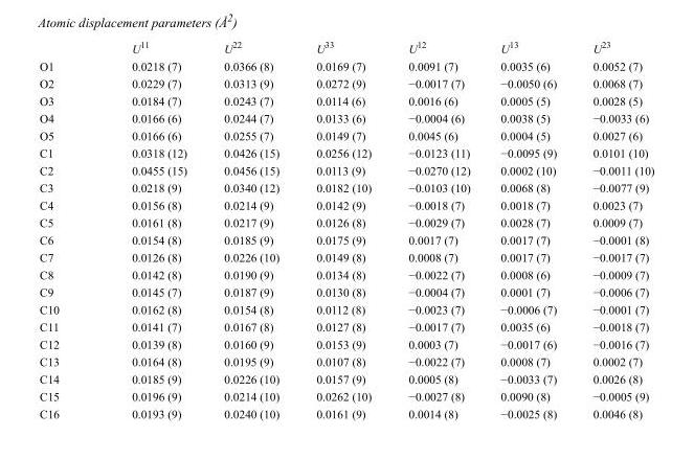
<table><thead><tr><td></td><td>U<sup>11</sup></td><td>U<sup>22</sup></td><td>U<sup>33</sup></td><td>U<sup>12</sup></td><td>U<sup>13</sup></td><td>U<sup>23</sup></td></tr></thead><tbody><tr><td>O1</td><td>0.0218 (7)</td><td>0.0366 (8)</td><td>0.0169 (7)</td><td>0.0091 (7)</td><td>0.0035 (6)</td><td>0.0052 (7)</td></tr><tr><td>O2</td><td>0.0229 (7)</td><td>0.0313 (9)</td><td>0.0272 (9)</td><td>−0.0017 (7)</td><td>−0.0050 (6)</td><td>0.0068 (7)</td></tr><tr><td>O3</td><td>0.0184 (7)</td><td>0.0243 (7)</td><td>0.0114 (6)</td><td>0.0016 (6)</td><td>0.0005 (5)</td><td>0.0028 (5)</td></tr><tr><td>O4</td><td>0.0166 (6)</td><td>0.0244 (7)</td><td>0.0133 (6)</td><td>−0.0004 (6)</td><td>0.0038 (5)</td><td>−0.0033 (6)</td></tr><tr><td>O5</td><td>0.0166 (6)</td><td>0.0255 (7)</td><td>0.0149 (7)</td><td>0.0045 (6)</td><td>0.0004 (5)</td><td>0.0027 (6)</td></tr><tr><td>C1</td><td>0.0318 (12)</td><td>0.0426 (15)</td><td>0.0256 (12)</td><td>−0.0123 (11)</td><td>−0.0095 (9)</td><td>0.0101 (10)</td></tr><tr><td>C2</td><td>0.0455 (15)</td><td>0.0456 (15)</td><td>0.0113 (9)</td><td>−0.0270 (12)</td><td>0.0002 (10)</td><td>−0.0011 (10)</td></tr><tr><td>C3</td><td>0.0218 (9)</td><td>0.0340 (12)</td><td>0.0182 (10)</td><td>−0.0103 (10)</td><td>0.0068 (8)</td><td>−0.0077 (9)</td></tr><tr><td>C4</td><td>0.0156 (8)</td><td>0.0214 (9)</td><td>0.0142 (9)</td><td>−0.0018 (7)</td><td>0.0018 (7)</td><td>0.0023 (7)</td></tr><tr><td>C5</td><td>0.0161 (8)</td><td>0.0217 (9)</td><td>0.0126 (8)</td><td>−0.0029 (7)</td><td>0.0028 (7)</td><td>0.0009 (7)</td></tr><tr><td>C6</td><td>0.0154 (8)</td><td>0.0185 (9)</td><td>0.0175 (9)</td><td>0.0017 (7)</td><td>0.0017 (7)</td><td>−0.0001 (8)</td></tr><tr><td>C7</td><td>0.0126 (8)</td><td>0.0226 (10)</td><td>0.0149 (8)</td><td>0.0008 (7)</td><td>0.0017 (7)</td><td>−0.0017 (7)</td></tr><tr><td>C8</td><td>0.0142 (8)</td><td>0.0190 (9)</td><td>0.0134 (8)</td><td>−0.0022 (7)</td><td>0.0008 (6)</td><td>−0.0009 (7)</td></tr><tr><td>C9</td><td>0.0145 (7)</td><td>0.0187 (9)</td><td>0.0130 (8)</td><td>−0.0004 (7)</td><td>0.0001 (7)</td><td>−0.0006 (7)</td></tr><tr><td>C10</td><td>0.0162 (8)</td><td>0.0154 (8)</td><td>0.0112 (8)</td><td>−0.0023 (7)</td><td>−0.0006 (7)</td><td>−0.0001 (7)</td></tr><tr><td>C11</td><td>0.0141 (7)</td><td>0.0167 (8)</td><td>0.0127 (8)</td><td>−0.0017 (7)</td><td>0.0035 (6)</td><td>−0.0018 (7)</td></tr><tr><td>C12</td><td>0.0139 (8)</td><td>0.0160 (9)</td><td>0.0153 (9)</td><td>0.0003 (7)</td><td>−0.0017 (6)</td><td>−0.0016 (7)</td></tr><tr><td>C13</td><td>0.0164 (8)</td><td>0.0195 (9)</td><td>0.0107 (8)</td><td>−0.0022 (7)</td><td>0.0008 (7)</td><td>0.0002 (7)</td></tr><tr><td>C14</td><td>0.0185 (9)</td><td>0.0226 (10)</td><td>0.0157 (9)</td><td>0.0005 (8)</td><td>−0.0033 (7)</td><td>0.0026 (8)</td></tr><tr><td>C15</td><td>0.0196 (9)</td><td>0.0214 (10)</td><td>0.0262 (10)</td><td>−0.0027 (8)</td><td>0.0090 (8)</td><td>−0.0005 (9)</td></tr><tr><td>C16</td><td>0.0193 (9)</td><td>0.0240 (10)</td><td>0.0161 (9)</td><td>0.0014 (8)</td><td>−0.0025 (8)</td><td>0.0046 (8)</td></tr></tbody></table>